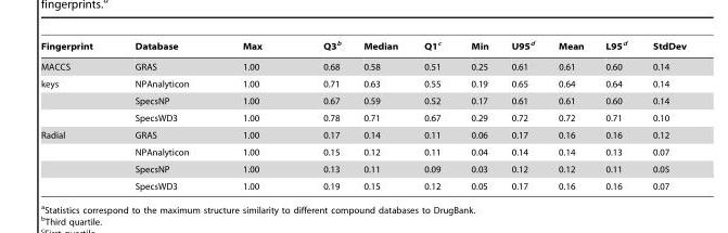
<table><thead><tr><td>Fingerprint</td><td>Database</td><td>Max</td><td>Q3<sup>b</sup></td><td>Median</td><td>Q1<sup>c</sup></td><td>Min</td><td>U95<sup>d</sup></td><td>Mean</td><td>L95<sup>d</sup></td><td>StdDev</td></tr></thead><tbody><tr><td>MACCS</td><td>GRAS</td><td>1.00</td><td>0.68</td><td>0.58</td><td>0.51</td><td>0.25</td><td>0.61</td><td>0.61</td><td>0.60</td><td>0.14</td></tr><tr><td rowspan="3">keys</td><td>NPAnalyticon</td><td>1.00</td><td>0.71</td><td>0.63</td><td>0.55</td><td>0.19</td><td>0.65</td><td>0.64</td><td>0.64</td><td>0.14</td></tr><tr><td>SpecsNP</td><td>1.00</td><td>0.67</td><td>0.59</td><td>0.52</td><td>0.17</td><td>0.61</td><td>0.61</td><td>0.60</td><td>0.14</td></tr><tr><td>SpecsWD3</td><td>1.00</td><td>0.78</td><td>0.71</td><td>0.67</td><td>0.29</td><td>0.72</td><td>0.72</td><td>0.71</td><td>0.10</td></tr><tr><td rowspan="4">Radial</td><td>GRAS</td><td>1.00</td><td>0.17</td><td>0.14</td><td>0.11</td><td>0.06</td><td>0.17</td><td>0.16</td><td>0.16</td><td>0.12</td></tr><tr><td>NPAnalyticon</td><td>1.00</td><td>0.15</td><td>0.12</td><td>0.11</td><td>0.04</td><td>0.14</td><td>0.14</td><td>0.13</td><td>0.07</td></tr><tr><td>SpecsNP</td><td>1.00</td><td>0.13</td><td>0.11</td><td>0.09</td><td>0.03</td><td>0.12</td><td>0.12</td><td>0.11</td><td>0.05</td></tr><tr><td>SpecsWD3</td><td>1.00</td><td>0.19</td><td>0.15</td><td>0.12</td><td>0.05</td><td>0.17</td><td>0.16</td><td>0.16</td><td>0.07</td></tr></tbody></table>